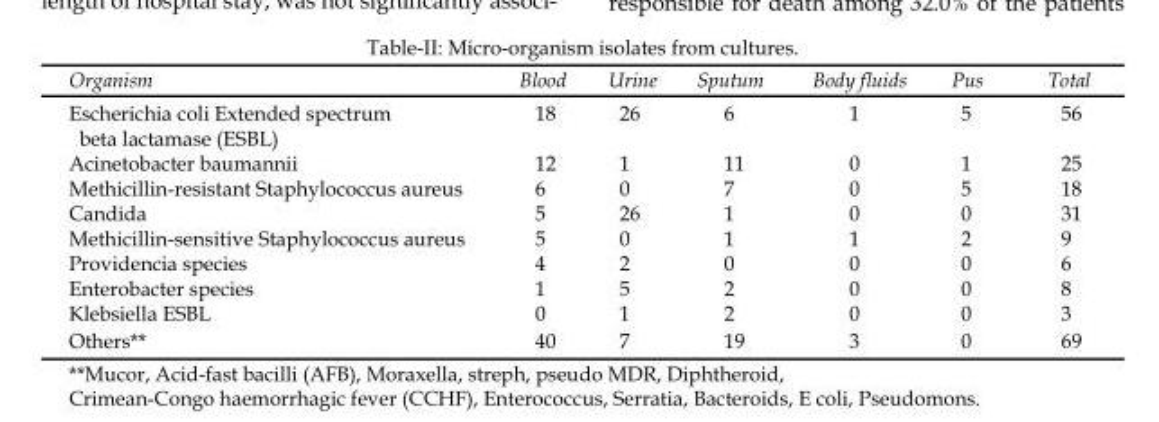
<table><thead><tr><td>Organism</td><td>Blood</td><td>Urine</td><td>Sputum</td><td>Body fluids</td><td>Pus</td><td>Total</td></tr></thead><tbody><tr><td>Escherichia coli Extended spectrum beta lactamase (ESBL)</td><td>18</td><td>26</td><td>6</td><td>1</td><td>5</td><td>56</td></tr><tr><td>Acinetobacter baumannii</td><td>12</td><td>1</td><td>11</td><td>0</td><td>1</td><td>25</td></tr><tr><td>Methicillin-resistant Staphylococcus aureus</td><td>6</td><td>0</td><td>7</td><td>0</td><td>5</td><td>18</td></tr><tr><td>Candida</td><td>5</td><td>26</td><td>1</td><td>0</td><td>0</td><td>31</td></tr><tr><td>Methicillin-sensitive Staphylococcus aureus</td><td>5</td><td>0</td><td>1</td><td>1</td><td>2</td><td>9</td></tr><tr><td>Providencia species</td><td>4</td><td>2</td><td>0</td><td>0</td><td>0</td><td>6</td></tr><tr><td>Enterobacter species</td><td>1</td><td>5</td><td>2</td><td>0</td><td>0</td><td>8</td></tr><tr><td>Klebsiella ESBL</td><td>0</td><td>1</td><td>2</td><td>0</td><td>0</td><td>3</td></tr><tr><td>Others**</td><td>40</td><td>7</td><td>19</td><td>3</td><td>0</td><td>69</td></tr></tbody></table>